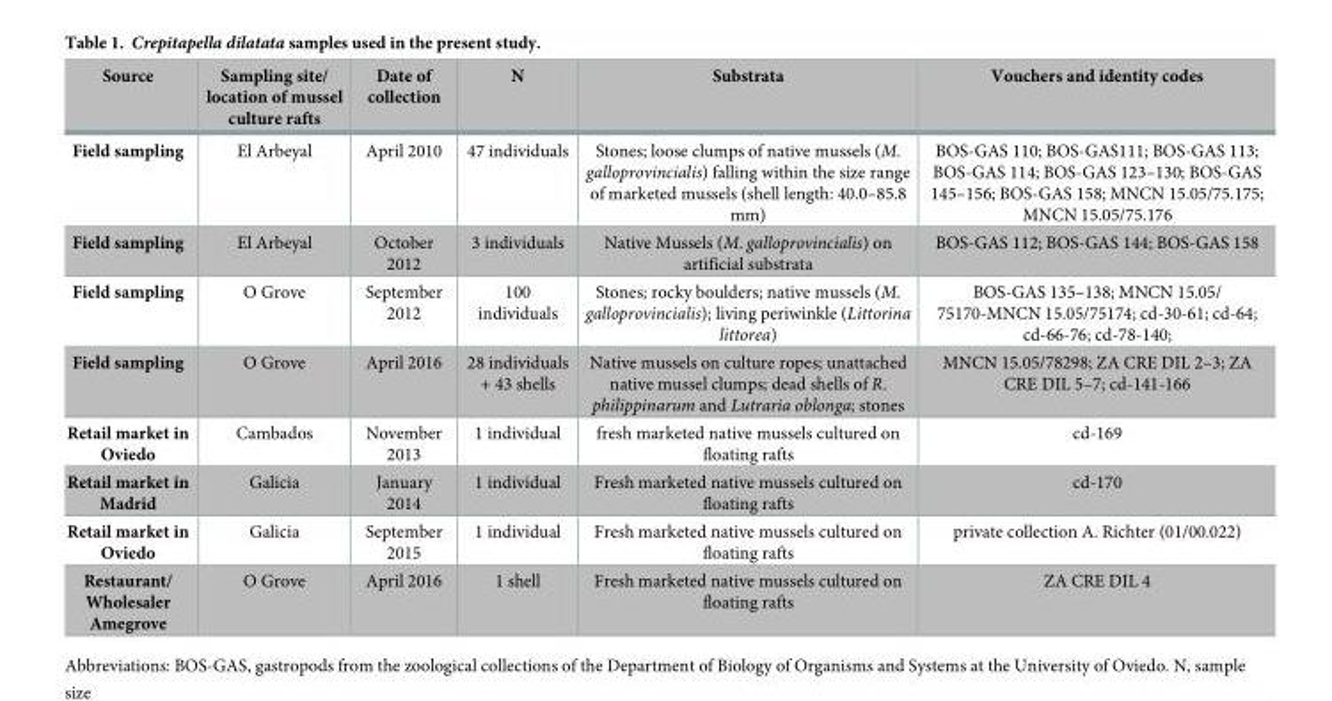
<table><thead><tr><td>Source</td><td>Sampling site/ location of mussel culture rafts</td><td>Date of collection</td><td>N</td><td>Substrata</td><td>Vouchers and identity codes</td></tr></thead><tbody><tr><td>Field sampling</td><td>El Arbeyal</td><td>April 2010</td><td>47 individuals</td><td>Stones; loose clumps of native mussels (M. galloprovincialis) falling within the size range of marketed mussels (shell length: 40.0–85.8 mm)</td><td>BOS-GAS 110; BOS-GAS111; BOS-GAS 113; BOS-GAS 114; BOS-GAS 123–130; BOS-GAS 145–156; BOS-GAS 158; MNCN 15.05/75.175; MNCN 15.05/75.176</td></tr><tr><td>Field sampling</td><td>El Arbeyal</td><td>October 2012</td><td>3 individuals</td><td>Native Mussels (M. galloprovincialis) on artificial substrata</td><td>BOS-GAS 112; BOS-GAS 144; BOS-GAS 158</td></tr><tr><td>Field sampling</td><td>O Grove</td><td>September 2012</td><td>100 individuals</td><td>Stones; rocky boulders; native mussels (M. galloprovincialis); living periwinkle (Littorina littorea)</td><td>BOS-GAS 135–138; MNCN 15.05/ 75170-MNCN 15.05/75174; cd-30-61; cd-64; cd-66-76; cd-78-140;</td></tr><tr><td>Field sampling</td><td>O Grove</td><td>April 2016</td><td>28 individuals + 43 shells</td><td>Native mussels on culture ropes; unattached native mussel clumps; dead shells of R. philippinarum and Lutraria oblonga; stones</td><td>MNCN 15.05/78298; ZA CRE DIL 2–3; ZA CRE DIL 5–7; cd-141-166</td></tr><tr><td>Retail market in Oviedo</td><td>Cambados</td><td>November 2013</td><td>1 individual</td><td>fresh marketed native mussels cultured on floating rafts</td><td>cd-169</td></tr><tr><td>Retail market in Madrid</td><td>Galicia</td><td>January 2014</td><td>1 individual</td><td>Fresh marketed native mussels cultured on floating rafts</td><td>cd-170</td></tr><tr><td>Retail market in Oviedo</td><td>Galicia</td><td>September 2015</td><td>1 individual</td><td>Fresh marketed native mussels cultured on floating rafts</td><td>private collection A. Richter (01/00.022)</td></tr><tr><td>Restaurant/ Wholesaler Amegrove</td><td>O Grove</td><td>April 2016</td><td>1 shell</td><td>Fresh marketed native mussels cultured on floating rafts</td><td>ZA CRE DIL 4</td></tr></tbody></table>